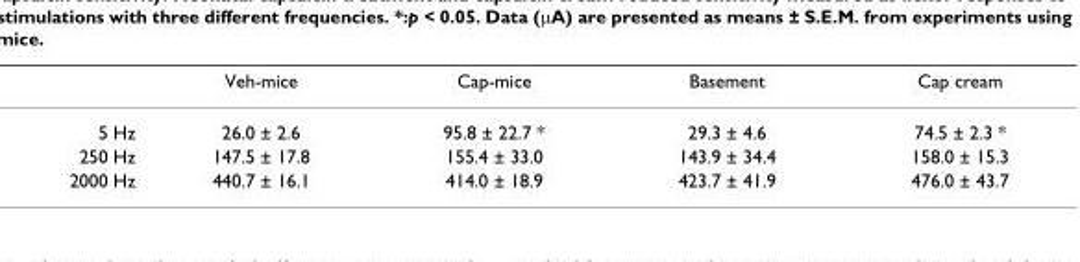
<table><thead><tr><td></td><td>Veh-mice</td><td>Cap-mice</td><td>Basement</td><td>Cap cream</td></tr></thead><tbody><tr><td>5 Hz</td><td>26.0 ± 2.6</td><td>95.8 ± 22.7 *</td><td>29.3 ± 4.6</td><td>74.5 ± 2.3 *</td></tr><tr><td>250 Hz</td><td>147.5 ± 17.8</td><td>155.4 ± 33.0</td><td>143.9 ± 34.4</td><td>158.0 ± 15.3</td></tr><tr><td>2000 Hz</td><td>440.7 ± 16.1</td><td>414.0 ± 18.9</td><td>423.7 ± 41.9</td><td>476.0 ± 43.7</td></tr></tbody></table>